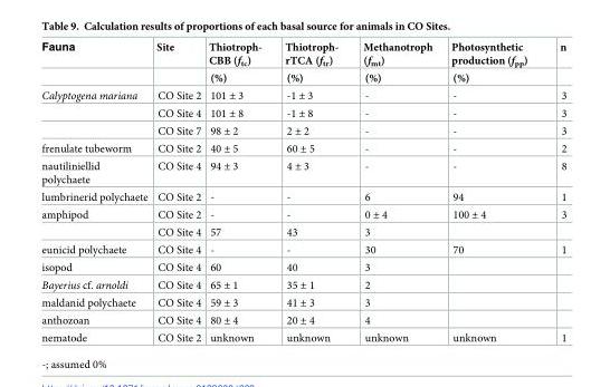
<table><thead><tr><td>Fauna</td><td>Site</td><td>Thiotroph- CBB (f<sub>tc</sub>)</td><td>Thiotroph- rTCA (f<sub>tr</sub>)</td><td>Methanotroph (f<sub>mt</sub>)</td><td>Photosynthetic production (f<sub>pp</sub>)</td><td>n</td></tr></thead><tbody><tr><td></td><td></td><td>(%)</td><td>(%)</td><td>(%)</td><td>(%)</td><td></td></tr><tr><td rowspan="3">Calyptogena mariana</td><td>CO Site 2</td><td>101 ± 3</td><td>-1 ± 3</td><td>-</td><td>-</td><td>3</td></tr><tr><td>CO Site 4</td><td>101 ± 8</td><td>-1 ± 8</td><td>-</td><td>-</td><td>3</td></tr><tr><td>CO Site 7</td><td>98 ± 2</td><td>2 ± 2</td><td>-</td><td>-</td><td>3</td></tr><tr><td>frenulate tubeworm</td><td>CO Site 2</td><td>40 ± 5</td><td>60 ± 5</td><td>-</td><td>-</td><td>2</td></tr><tr><td>nautiliniellid polychaete</td><td>CO Site 4</td><td>94 ± 3</td><td>4 ± 3</td><td>-</td><td>-</td><td>8</td></tr><tr><td>lumbrinerid polychaete</td><td>CO Site 2</td><td>-</td><td>-</td><td>6</td><td>94</td><td>1</td></tr><tr><td rowspan="2">amphipod</td><td>CO Site 2</td><td>-</td><td>-</td><td>0 ± 4</td><td>100 ± 4</td><td>3</td></tr><tr><td>CO Site 4</td><td>57</td><td>43</td><td>3</td><td></td><td></td></tr><tr><td>eunicid polychaete</td><td>CO Site 4</td><td>-</td><td>-</td><td>30</td><td>70</td><td>1</td></tr><tr><td>isopod</td><td>CO Site 4</td><td>60</td><td>40</td><td>3</td><td></td><td></td></tr><tr><td>Bayerius cf. arnoldi</td><td>CO Site 4</td><td>65 ± 1</td><td>35 ± 1</td><td>2</td><td></td><td></td></tr><tr><td>maldanid polychaete</td><td>CO Site 4</td><td>59 ± 3</td><td>41 ± 3</td><td>3</td><td></td><td></td></tr><tr><td>anthozoan</td><td>CO Site 4</td><td>80 ± 4</td><td>20 ± 4</td><td>4</td><td></td><td></td></tr><tr><td>nematode</td><td>CO Site 2</td><td>unknown</td><td>unknown</td><td>unknown</td><td>unknown</td><td>1</td></tr></tbody></table>